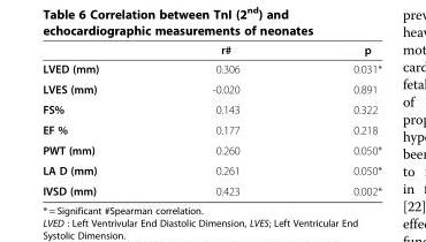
<table><thead><tr><td></td><td>r#</td><td>p</td></tr></thead><tbody><tr><td>LVED (mm)</td><td>0.306</td><td>0.031*</td></tr><tr><td>LVES (mm)</td><td>-0.020</td><td>0.891</td></tr><tr><td>FS%</td><td>0.143</td><td>0.322</td></tr><tr><td>EF %</td><td>0.177</td><td>0.218</td></tr><tr><td>PWT (mm)</td><td>0.260</td><td>0.050*</td></tr><tr><td>LA D (mm)</td><td>0.261</td><td>0.050*</td></tr><tr><td>IVSD (mm)</td><td>0.423</td><td>0.002*</td></tr></tbody></table>